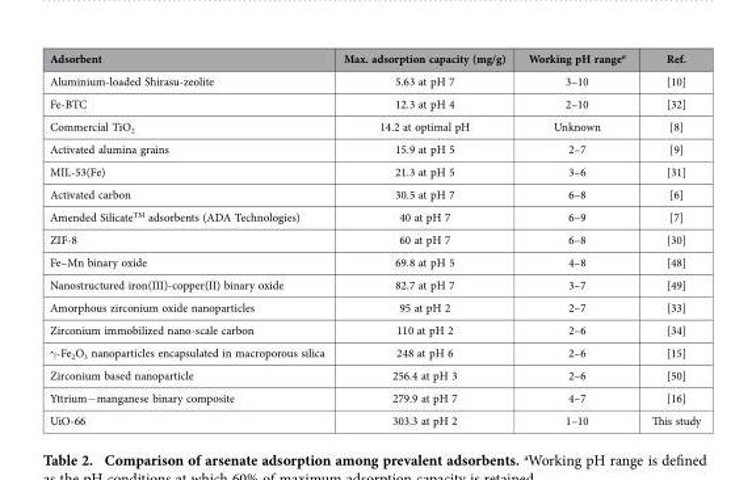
<table><thead><tr><td>Adsorbent</td><td>Max. adsorption capacity (mg/g)</td><td>Working pH range<sup>a</sup></td><td>Ref.</td></tr></thead><tbody><tr><td>Aluminium-loaded Shirasu-zeolite</td><td>5.63 at pH 7</td><td>3–10</td><td>[10]</td></tr><tr><td>Fe-BTC</td><td>12.3 at pH 4</td><td>2–10</td><td>[32]</td></tr><tr><td>Commercial TiO<sub>2</sub></td><td>14.2 at optimal pH</td><td>Unknown</td><td>[8]</td></tr><tr><td>Activated alumina grains</td><td>15.9 at pH 5</td><td>2–7</td><td>[9]</td></tr><tr><td>MIL-53(Fe)</td><td>21.3 at pH 5</td><td>3–6</td><td>[31]</td></tr><tr><td>Activated carbon</td><td>30.5 at pH 7</td><td>6–8</td><td>[6]</td></tr><tr><td>Amended Silicate<sup>TM</sup> adsorbents (ADA Technologies)</td><td>40 at pH 7</td><td>6–9</td><td>[7]</td></tr><tr><td>ZIF-8</td><td>60 at pH 7</td><td>6–8</td><td>[30]</td></tr><tr><td>Fe–Mn binary oxide</td><td>69.8 at pH 5</td><td>4–8</td><td>[48]</td></tr><tr><td>Nanostructured iron(III)-copper(II) binary oxide</td><td>82.7 at pH 7</td><td>3–7</td><td>[49]</td></tr><tr><td>Amorphous zirconium oxide nanoparticles</td><td>95 at pH 2</td><td>2–7</td><td>[33]</td></tr><tr><td>Zirconium immobilized nano-scale carbon</td><td>110 at pH 2</td><td>2–6</td><td>[34]</td></tr><tr><td>γ -Fe<sub>2</sub>O<sub>3</sub> nanoparticles encapsulated in macroporous silica</td><td>248 at pH 6</td><td>2–6</td><td>[15]</td></tr><tr><td>Zirconium based nanoparticle</td><td>256.4 at pH 3</td><td>2–6</td><td>[50]</td></tr><tr><td>Yttrium− manganese binary composite</td><td>279.9 at pH 7</td><td>4–7</td><td>[16]</td></tr><tr><td>UiO-66</td><td>303.3 at pH 2</td><td>1–10</td><td>This study</td></tr></tbody></table>